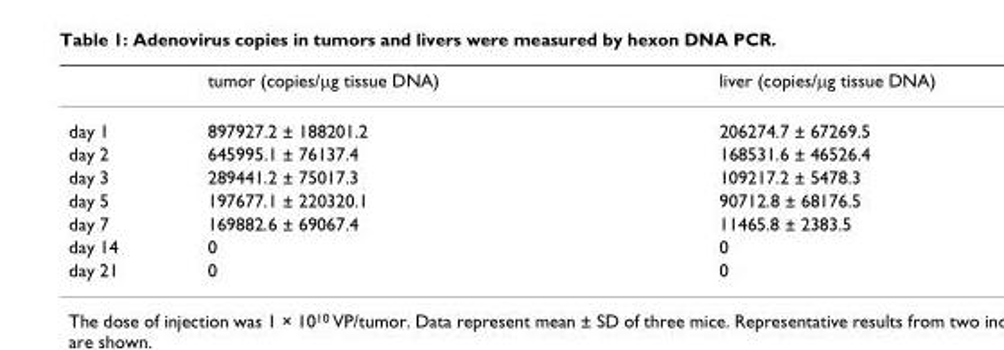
<table><thead><tr><td></td><td>tumor (copies/μg tissue DNA)</td><td>liver (copies/μg tissue DNA)</td></tr></thead><tbody><tr><td>day 1</td><td>897927.2 ± 188201.2</td><td>206274.7 ± 67269.5</td></tr><tr><td>day 2</td><td>645995.1 ± 76137.4</td><td>168531.6 ± 46526.4</td></tr><tr><td>day 3</td><td>289441.2 ± 75017.3</td><td>109217.2 ± 5478.3</td></tr><tr><td>day 5</td><td>197677.1 ± 220320.1</td><td>90712.8 ± 68176.5</td></tr><tr><td>day 7</td><td>169882.6 ± 69067.4</td><td>11465.8 ± 2383.5</td></tr><tr><td>day 14</td><td>0</td><td>0</td></tr><tr><td>day 21</td><td>0</td><td>0</td></tr></tbody></table>